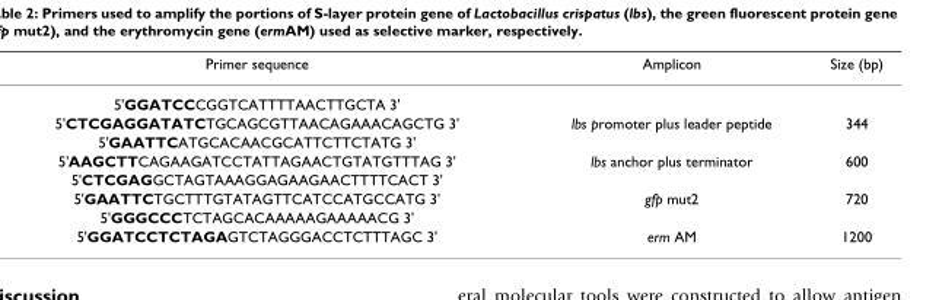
<table><thead><tr><td>Primer sequence</td><td>Amplicon</td><td>Size (bp)</td></tr></thead><tbody><tr><td colspan="3">5&#x27;GGATCCCGGTCATTTTAACTTGCTA 3&#x27;</td></tr><tr><td>5&#x27;CTCGAGGATATCTGCAGCGTTAACAGAAACAGCTG 3&#x27;</td><td>lbs promoter plus leader peptide</td><td>344</td></tr><tr><td colspan="3">5&#x27;GAATTCATGCACAACGCATTCTTCTATG 3&#x27;</td></tr><tr><td>5&#x27;AAGCTTCAGAAGATCCTATTAGAACTGTATGTTTAG 3&#x27;</td><td>lbs anchor plus terminator</td><td>600</td></tr><tr><td colspan="3">5&#x27;CTCGAGGCTAGTAAAGGAGAAGAACTTTTCACT 3&#x27;</td></tr><tr><td>5&#x27;GAATTCTGCTTTGTATAGTTCATCCATGCCATG 3&#x27;</td><td>gfp mut2</td><td>720</td></tr><tr><td colspan="3">5&#x27;GGGCCCTCTAGCACAAAAAGAAAAACG 3&#x27;</td></tr><tr><td>5&#x27;GGATCCTCTAGAGTCTAGGGACCTCTTTAGC 3&#x27;</td><td>erm AM</td><td>1200</td></tr></tbody></table>